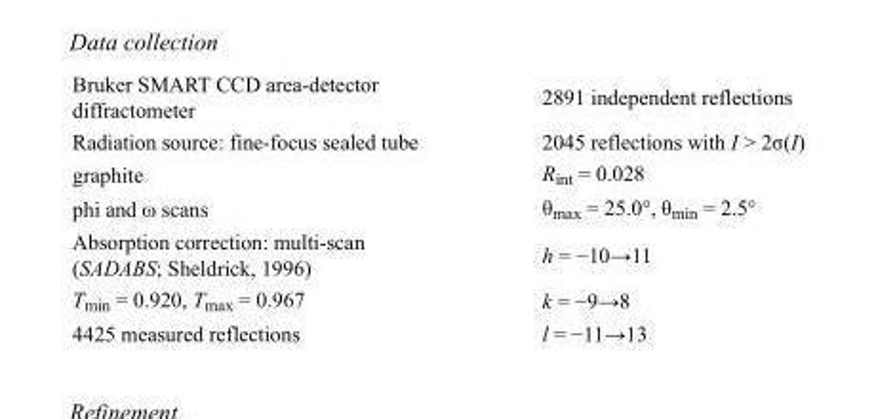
<table><tbody><tr><td>Bruker SMART CCD area-detector diffractometer</td><td>2891 independent reflections</td></tr><tr><td>Radiation source: fine-focus sealed tube</td><td>2045 reflections with I &gt; 2σ(I)</td></tr><tr><td>graphite</td><td>R<sub>int</sub> = 0.028</td></tr><tr><td>phi and ω scans</td><td>θ<sub>max</sub> = 25.0°, θ<sub>min</sub> = 2.5°</td></tr><tr><td>Absorption correction: multi-scan (SADABS; Sheldrick, 1996)</td><td>h = −10→11</td></tr><tr><td>T<sub>min</sub> = 0.920, T<sub>max</sub> = 0.967</td><td>k = −9→8</td></tr><tr><td>4425 measured reflections</td><td>l = −11→13</td></tr></tbody></table>